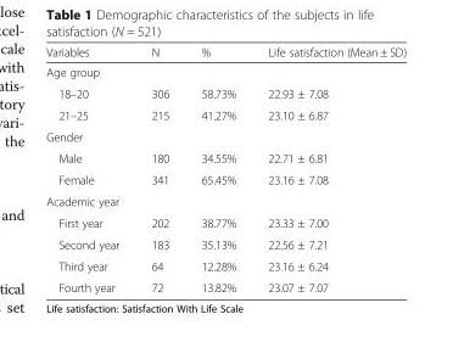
<table><thead><tr><td>Variables</td><td>N</td><td>%</td><td>Life satisfaction (Mean ± SD)</td></tr></thead><tbody><tr><td colspan="4">Age group</td></tr><tr><td>18–20</td><td>306</td><td>58.73%</td><td>22.93 ± 7.08</td></tr><tr><td>21–25</td><td>215</td><td>41.27%</td><td>23.10 ± 6.87</td></tr><tr><td colspan="4">Gender</td></tr><tr><td>Male</td><td>180</td><td>34.55%</td><td>22.71 ± 6.81</td></tr><tr><td>Female</td><td>341</td><td>65.45%</td><td>23.16 ± 7.08</td></tr><tr><td colspan="4">Academic year</td></tr><tr><td>First year</td><td>202</td><td>38.77%</td><td>23.33 ± 7.00</td></tr><tr><td>Second year</td><td>183</td><td>35.13%</td><td>22.56 ± 7.21</td></tr><tr><td>Third year</td><td>64</td><td>12.28%</td><td>23.16 ± 6.24</td></tr><tr><td>Fourth year</td><td>72</td><td>13.82%</td><td>23.07 ± 7.07</td></tr></tbody></table>